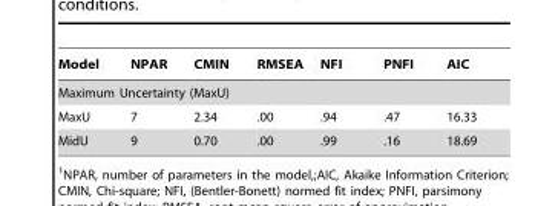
<table><thead><tr><td>Model</td><td>NPAR</td><td>CMIN</td><td>RMSEA</td><td>NFI</td><td>PNFI</td><td>AIC</td></tr></thead><tbody><tr><td colspan="7">Maximum Uncertainty (MaxU)</td></tr><tr><td>MaxU</td><td>7</td><td>2.34</td><td>.00</td><td>.94</td><td>.47</td><td>16.33</td></tr><tr><td>MidU</td><td>9</td><td>0.70</td><td>.00</td><td>.99</td><td>.16</td><td>18.69</td></tr></tbody></table>